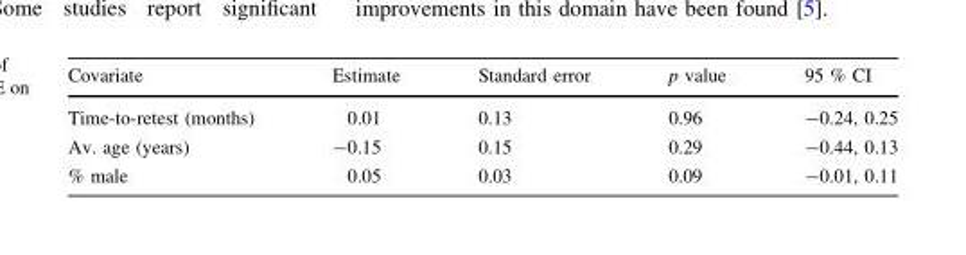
<table><thead><tr><td>Covariate</td><td>Estimate</td><td>Standard error</td><td>p value</td><td>95 % CI</td></tr></thead><tbody><tr><td>Time-to-retest (months)</td><td>0.01</td><td>0.13</td><td>0.96</td><td>-0.24, 0.25</td></tr><tr><td>Av. age (years)</td><td>-0.15</td><td>0.15</td><td>0.29</td><td>-0.44, 0.13</td></tr><tr><td>% male</td><td>0.05</td><td>0.03</td><td>0.09</td><td>-0.01, 0.11</td></tr></tbody></table>